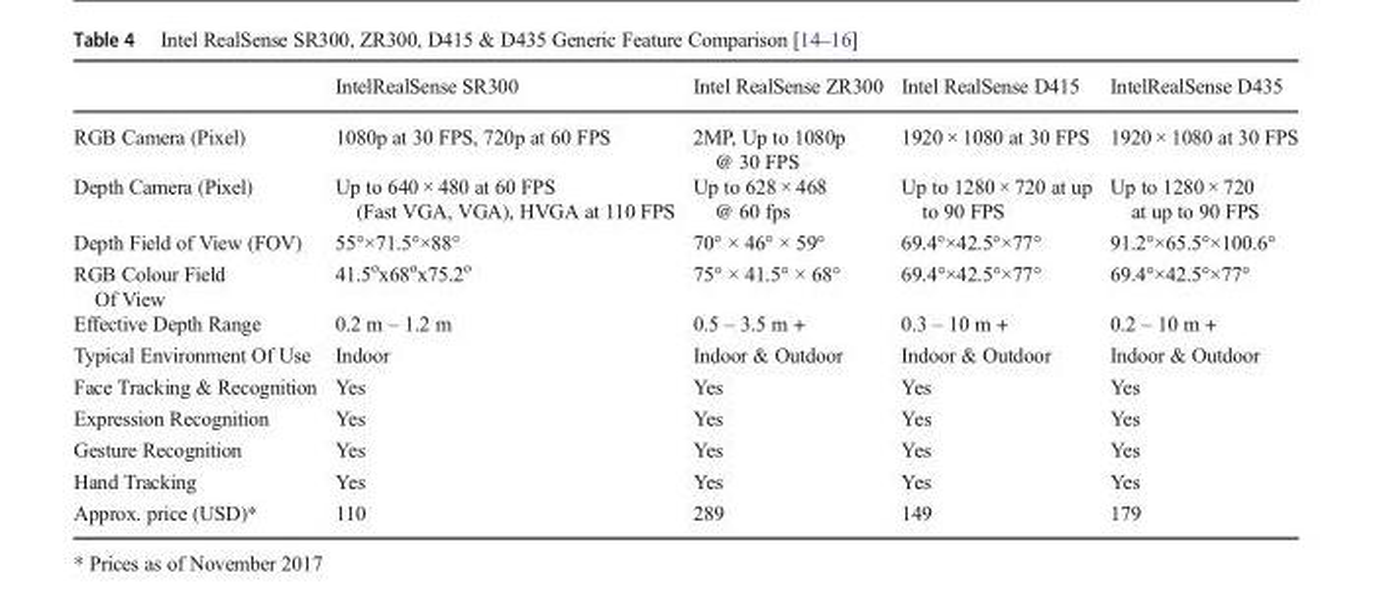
<table><thead><tr><td></td><td>IntelRealSense SR300</td><td>Intel RealSense ZR300</td><td>Intel RealSense D415</td><td>IntelRealSense D435</td></tr></thead><tbody><tr><td>RGB Camera (Pixel)</td><td>1080p at 30 FPS, 720p at 60 FPS</td><td>2MP, Up to 1080p @ 30 FPS</td><td>1920 × 1080 at 30 FPS</td><td>1920 × 1080 at 30 FPS</td></tr><tr><td>Depth Camera (Pixel)</td><td>Up to 640 × 480 at 60 FPS (Fast VGA, VGA), HVGA at 110 FPS</td><td>Up to 628 × 468 @ 60 fps</td><td>Up to 1280 × 720 at up to 90 FPS</td><td>Up to 1280 × 720 at up to 90 FPS</td></tr><tr><td>Depth Field of View (FOV)</td><td>55°×71.5°×88°</td><td>70° × 46° × 59°</td><td>69.4°×42.5°×77°</td><td>91.2°×65.5°×100.6°</td></tr><tr><td>RGB Colour Field Of View</td><td>41.5<sup>o</sup>x68<sup>o</sup>x75.2<sup>o</sup></td><td>75° × 41.5° × 68°</td><td>69.4°×42.5°×77°</td><td>69.4°×42.5°×77°</td></tr><tr><td>Effective Depth Range</td><td>0.2 m – 1.2 m</td><td>0.5 – 3.5 m +</td><td>0.3 – 10 m +</td><td>0.2 – 10 m +</td></tr><tr><td>Typical Environment Of Use</td><td>Indoor</td><td>Indoor &amp; Outdoor</td><td>Indoor &amp; Outdoor</td><td>Indoor &amp; Outdoor</td></tr><tr><td>Face Tracking &amp; Recognition</td><td>Yes</td><td>Yes</td><td>Yes</td><td>Yes</td></tr><tr><td>Expression Recognition</td><td>Yes</td><td>Yes</td><td>Yes</td><td>Yes</td></tr><tr><td>Gesture Recognition</td><td>Yes</td><td>Yes</td><td>Yes</td><td>Yes</td></tr><tr><td>Hand Tracking</td><td>Yes</td><td>Yes</td><td>Yes</td><td>Yes</td></tr><tr><td>Approx. price (USD)*</td><td>110</td><td>289</td><td>149</td><td>179</td></tr></tbody></table>